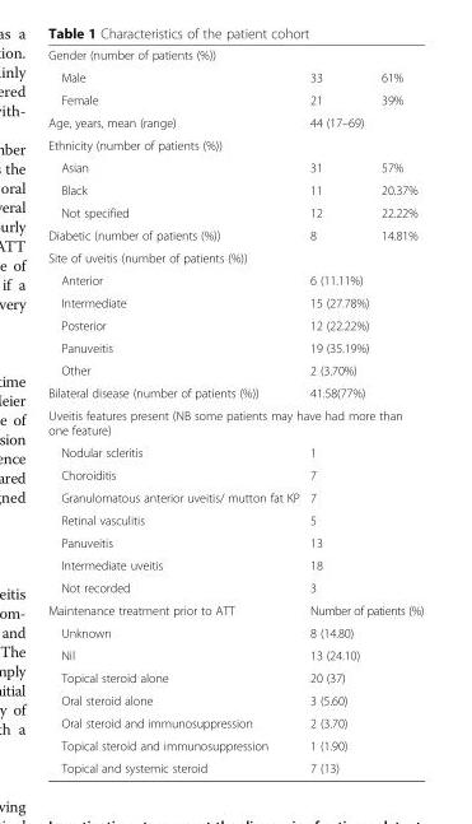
<table><tbody><tr><td colspan="3">Gender (number of patients (%))</td></tr><tr><td>Male</td><td>33</td><td>61%</td></tr><tr><td>Female</td><td>21</td><td>39%</td></tr><tr><td>Age, years, mean (range)</td><td>44 (17–69)</td><td></td></tr><tr><td colspan="3">Ethnicity (number of patients (%))</td></tr><tr><td>Asian</td><td>31</td><td>57%</td></tr><tr><td>Black</td><td>11</td><td>20.37%</td></tr><tr><td>Not specified</td><td>12</td><td>22.22%</td></tr><tr><td>Diabetic (number of patients (%))</td><td>8</td><td>14.81%</td></tr><tr><td colspan="3">Site of uveitis (number of patients (%))</td></tr><tr><td>Anterior</td><td colspan="2">6 (11.11%)</td></tr><tr><td>Intermediate</td><td colspan="2">15 (27.78%)</td></tr><tr><td>Posterior</td><td colspan="2">12 (22.22%)</td></tr><tr><td>Panuveitis</td><td colspan="2">19 (35.19%)</td></tr><tr><td>Other</td><td colspan="2">2 (3.70%)</td></tr><tr><td>Bilateral disease (number of patients (%))</td><td colspan="2">41.58(77%)</td></tr><tr><td colspan="3">Uveitis features present (NB some patients may have had more than one feature)</td></tr><tr><td>Nodular scleritis</td><td colspan="2">1</td></tr><tr><td>Choroiditis</td><td colspan="2">7</td></tr><tr><td>Granulomatous anterior uveitis/ mutton fat KP</td><td colspan="2">7</td></tr><tr><td>Retinal vasculitis</td><td colspan="2">5</td></tr><tr><td>Panuveitis</td><td colspan="2">13</td></tr><tr><td>Intermediate uveitis</td><td colspan="2">18</td></tr><tr><td>Not recorded</td><td colspan="2">3</td></tr><tr><td>Maintenance treatment prior to ATT</td><td colspan="2">Number of patients (%)</td></tr><tr><td>Unknown</td><td colspan="2">8 (14.80)</td></tr><tr><td>Nil</td><td colspan="2">13 (24.10)</td></tr><tr><td>Topical steroid alone</td><td colspan="2">20 (37)</td></tr><tr><td>Oral steroid alone</td><td colspan="2">3 (5.60)</td></tr><tr><td>Oral steroid and immunosuppression</td><td colspan="2">2 (3.70)</td></tr><tr><td>Topical steroid and immunosuppression</td><td colspan="2">1 (1.90)</td></tr><tr><td>Topical and systemic steroid</td><td colspan="2">7 (13)</td></tr></tbody></table>